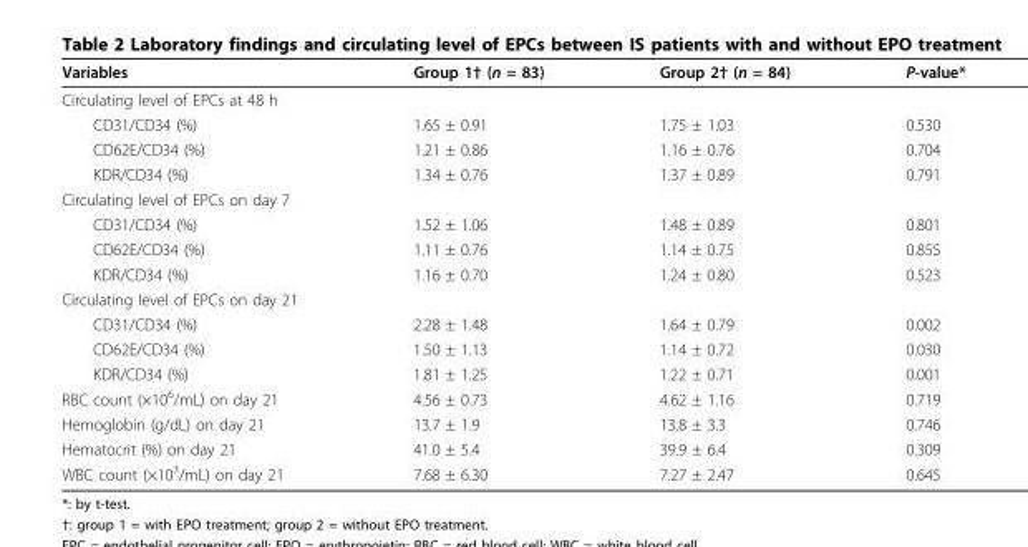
<table><thead><tr><td>Variables</td><td>Group 1† (n = 83)</td><td>Group 2† (n = 84)</td><td>P-value*</td></tr></thead><tbody><tr><td colspan="4">Circulating level of EPCs at 48 h</td></tr><tr><td>CD31/CD34 (%)</td><td>1.65 ± 0.91</td><td>1.75 ± 1.03</td><td>0.530</td></tr><tr><td>CD62E/CD34 (%)</td><td>1.21 ± 0.86</td><td>1.16 ± 0.76</td><td>0.704</td></tr><tr><td>KDR/CD34 (%)</td><td>1.34 ± 0.76</td><td>1.37 ± 0.89</td><td>0.791</td></tr><tr><td colspan="4">Circulating level of EPCs on day 7</td></tr><tr><td>CD31/CD34 (%)</td><td>1.52 ± 1.06</td><td>1.48 ± 0.89</td><td>0.801</td></tr><tr><td>CD62E/CD34 (%)</td><td>1.11 ± 0.76</td><td>1.14 ± 0.75</td><td>0.855</td></tr><tr><td>KDR/CD34 (%)</td><td>1.16 ± 0.70</td><td>1.24 ± 0.80</td><td>0.523</td></tr><tr><td colspan="4">Circulating level of EPCs on day 21</td></tr><tr><td>CD31/CD34 (%)</td><td>2.28 ± 1.48</td><td>1.64 ± 0.79</td><td>0.002</td></tr><tr><td>CD62E/CD34 (%)</td><td>1.50 ± 1.13</td><td>1.14 ± 0.72</td><td>0.030</td></tr><tr><td>KDR/CD34 (%)</td><td>1.81 ± 1.25</td><td>1.22 ± 0.71</td><td>0.001</td></tr><tr><td>RBC count (×10<sup>6</sup>/mL) on day 21</td><td>4.56 ± 0.73</td><td>4.62 ± 1.16</td><td>0.719</td></tr><tr><td>Hemoglobin (g/dL) on day 21</td><td>13.7 ± 1.9</td><td>13.8 ± 3.3</td><td>0.746</td></tr><tr><td>Hematocrit (%) on day 21</td><td>41.0 ± 5.4</td><td>39.9 ± 6.4</td><td>0.309</td></tr><tr><td>WBC count (×10<sup>3</sup>/mL) on day 21</td><td>7.68 ± 6.30</td><td>7.27 ± 2.47</td><td>0.645</td></tr></tbody></table>